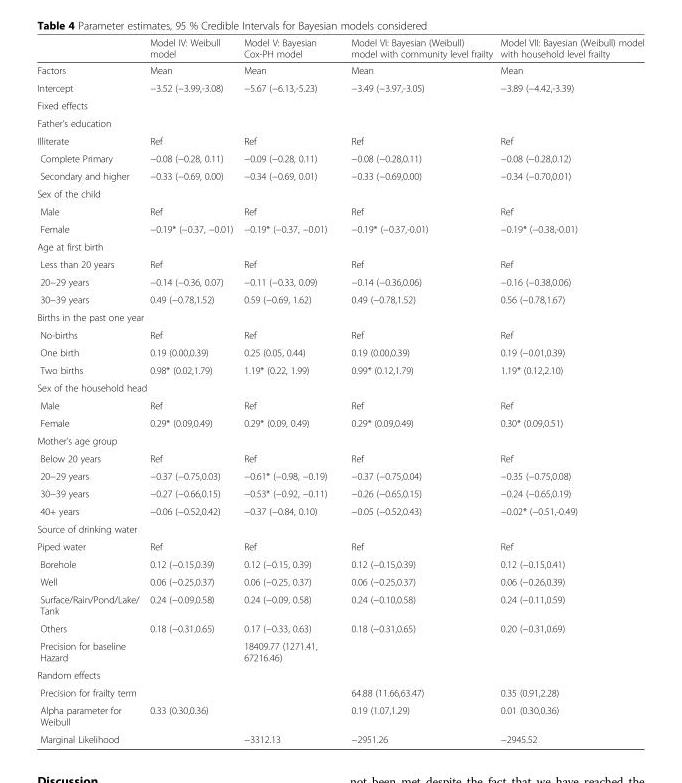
<table><thead><tr><td></td><td>Model IV: Weibull model</td><td>Model V: Bayesian Cox-PH model</td><td>Model VI: Bayesian (Weibull) model with community level frailty</td><td>Model VII: Bayesian (Weibull) model with household level frailty</td></tr></thead><tbody><tr><td>Factors</td><td>Mean</td><td>Mean</td><td>Mean</td><td>Mean</td></tr><tr><td>Intercept</td><td>−3.52 (−3.99,-3.08)</td><td>−5.67 (−6.13,-5.23)</td><td>−3.49 (−3.97,-3.05)</td><td>−3.89 (−4.42,-3.39)</td></tr><tr><td colspan="5">Fixed effects</td></tr><tr><td colspan="5">Father’s education</td></tr><tr><td>Illiterate</td><td>Ref</td><td>Ref</td><td>Ref</td><td>Ref</td></tr><tr><td>Complete Primary</td><td>−0.08 (−0.28, 0.11)</td><td>−0.09 (−0.28, 0.11)</td><td>−0.08 (−0.28,0.11)</td><td>−0.08 (−0.28,0.12)</td></tr><tr><td>Secondary and higher</td><td>−0.33 (−0.69, 0.00)</td><td>−0.34 (−0.69, 0.01)</td><td>−0.33 (−0.69,0.00)</td><td>−0.34 (−0.70,0.01)</td></tr><tr><td colspan="5">Sex of the child</td></tr><tr><td>Male</td><td>Ref</td><td>Ref</td><td>Ref</td><td>Ref</td></tr><tr><td>Female</td><td>−0.19* (−0.37, −0.01)</td><td>−0.19* (−0.37, −0.01)</td><td>−0.19* (−0.37,-0.01)</td><td>−0.19* (−0.38,-0.01)</td></tr><tr><td colspan="5">Age at first birth</td></tr><tr><td>Less than 20 years</td><td>Ref</td><td>Ref</td><td>Ref</td><td>Ref</td></tr><tr><td>20−29 years</td><td>−0.14 (−0.36, 0.07)</td><td>−0.11 (−0.33, 0.09)</td><td>−0.14 (−0.36,0.06)</td><td>−0.16 (−0.38,0.06)</td></tr><tr><td>30−39 years</td><td>0.49 (−0.78,1.52)</td><td>0.59 (−0.69, 1.62)</td><td>0.49 (−0.78,1.52)</td><td>0.56 (−0.78,1.67)</td></tr><tr><td colspan="5">Births in the past one year</td></tr><tr><td>No-births</td><td>Ref</td><td>Ref</td><td>Ref</td><td>Ref</td></tr><tr><td>One birth</td><td>0.19 (0.00,0.39)</td><td>0.25 (0.05, 0.44)</td><td>0.19 (0.00,0.39)</td><td>0.19 (−0.01,0.39)</td></tr><tr><td>Two births</td><td>0.98* (0.02,1.79)</td><td>1.19* (0.22, 1.99)</td><td>0.99* (0.12,1.79)</td><td>1.19* (0.12,2.10)</td></tr><tr><td colspan="5">Sex of the household head</td></tr><tr><td>Male</td><td>Ref</td><td>Ref</td><td>Ref</td><td>Ref</td></tr><tr><td>Female</td><td>0.29* (0.09,0.49)</td><td>0.29* (0.09, 0.49)</td><td>0.29* (0.09,0.49)</td><td>0.30* (0.09,0.51)</td></tr><tr><td colspan="5">Mother’s age group</td></tr><tr><td>Below 20 years</td><td>Ref</td><td>Ref</td><td>Ref</td><td>Ref</td></tr><tr><td>20−29 years</td><td>−0.37 (−0.75,0.03)</td><td>−0.61* (−0.98, −0.19)</td><td>−0.37 (−0.75,0.04)</td><td>−0.35 (−0.75,0.08)</td></tr><tr><td>30−39 years</td><td>−0.27 (−0.66,0.15)</td><td>−0.53* (−0.92, −0.11)</td><td>−0.26 (−0.65,0.15)</td><td>−0.24 (−0.65,0.19)</td></tr><tr><td>40+ years</td><td>−0.06 (−0.52,0.42)</td><td>−0.37 (−0.84, 0.10)</td><td>−0.05 (−0.52,0.43)</td><td>−0.02* (−0.51,-0.49)</td></tr><tr><td colspan="5">Source of drinking water</td></tr><tr><td>Piped water</td><td>Ref</td><td>Ref</td><td>Ref</td><td>Ref</td></tr><tr><td>Borehole</td><td>0.12 (−0.15,0.39)</td><td>0.12 (−0.15, 0.39)</td><td>0.12 (−0.15,0.39)</td><td>0.12 (−0.15,0.41)</td></tr><tr><td>Well</td><td>0.06 (−0.25,0.37)</td><td>0.06 (−0.25, 0.37)</td><td>0.06 (−0.25,0.37)</td><td>0.06 (−0.26,0.39)</td></tr><tr><td>Surface/Rain/Pond/Lake/ Tank</td><td>0.24 (−0.09,0.58)</td><td>0.24 (−0.09, 0.58)</td><td>0.24 (−0.10,0.58)</td><td>0.24 (−0.11,0.59)</td></tr><tr><td>Others</td><td>0.18 (−0.31,0.65)</td><td>0.17 (−0.33, 0.63)</td><td>0.18 (−0.31,0.65)</td><td>0.20 (−0.31,0.69)</td></tr><tr><td>Precision for baseline Hazard</td><td></td><td>18409.77 (1271.41, 67216.46)</td><td></td><td></td></tr><tr><td colspan="5">Random effects</td></tr><tr><td>Precision for frailty term</td><td></td><td></td><td>64.88 (11.66,63.47)</td><td>0.35 (0.91,2.28)</td></tr><tr><td>Alpha parameter for Weibull</td><td>0.33 (0.30,0.36)</td><td></td><td>0.19 (1.07,1.29)</td><td>0.01 (0.30,0.36)</td></tr><tr><td>Marginal Likelihood</td><td></td><td>−3312.13</td><td>−2951.26</td><td>−2945.52</td></tr></tbody></table>